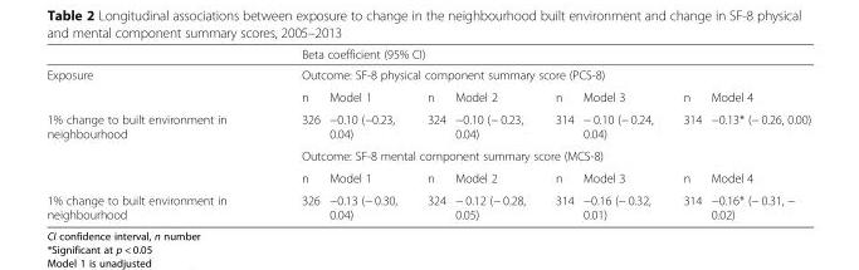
<table><thead><tr><td rowspan="3">Exposure</td><td rowspan="2" colspan="8">Beta coefficient (95% CI) Outcome: SF-8 physical component summary score (PCS-8)</td></tr><tr></tr><tr><td>n</td><td>Model 1</td><td>n</td><td>Model 2</td><td>n</td><td>Model 3</td><td>n</td><td>Model 4</td></tr></thead><tbody><tr><td rowspan="3">1% change to built environment in neighbourhood</td><td>326</td><td>−0.10 (−0.23, 0.04)</td><td>324</td><td>−0.10 (− 0.23, 0.04)</td><td>314</td><td>− 0.10 (− 0.24, 0.04)</td><td>314</td><td>−0.13* (− 0.26, 0.00)</td></tr><tr><td colspan="8">Outcome: SF-8 mental component summary score (MCS-8)</td></tr><tr><td>n</td><td>Model 1</td><td>n</td><td>Model 2</td><td>n</td><td>Model 3</td><td>n</td><td>Model 4</td></tr><tr><td>1% change to built environment in neighbourhood</td><td>326</td><td>−0.13 (− 0.30, 0.04)</td><td>324</td><td>− 0.12 (− 0.28, 0.05)</td><td>314</td><td>−0.16 (− 0.32, 0.01)</td><td>314</td><td>−0.16* (− 0.31, − 0.02)</td></tr></tbody></table>